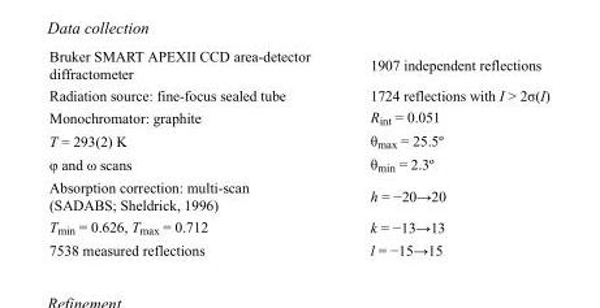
<table><tbody><tr><td>Bruker SMART APEXII CCD area-detector diffractometer</td><td>1907 independent reflections</td></tr><tr><td>Radiation source: fine-focus sealed tube</td><td>1724 reflections with I &gt; 2σ(I)</td></tr><tr><td>Monochromator: graphite</td><td>R<sub>int</sub> = 0.051</td></tr><tr><td>T = 293(2) K</td><td>θ<sub>max</sub> = 25.5º</td></tr><tr><td>φ and ω scans</td><td>θ<sub>min</sub> = 2.3º</td></tr><tr><td>Absorption correction: multi-scan (SADABS; Sheldrick, 1996)</td><td>h = −20→20</td></tr><tr><td>T<sub>min</sub> = 0.626, T<sub>max</sub> = 0.712</td><td>k = −13→13</td></tr><tr><td>7538 measured reflections</td><td>l = −15→15</td></tr></tbody></table>